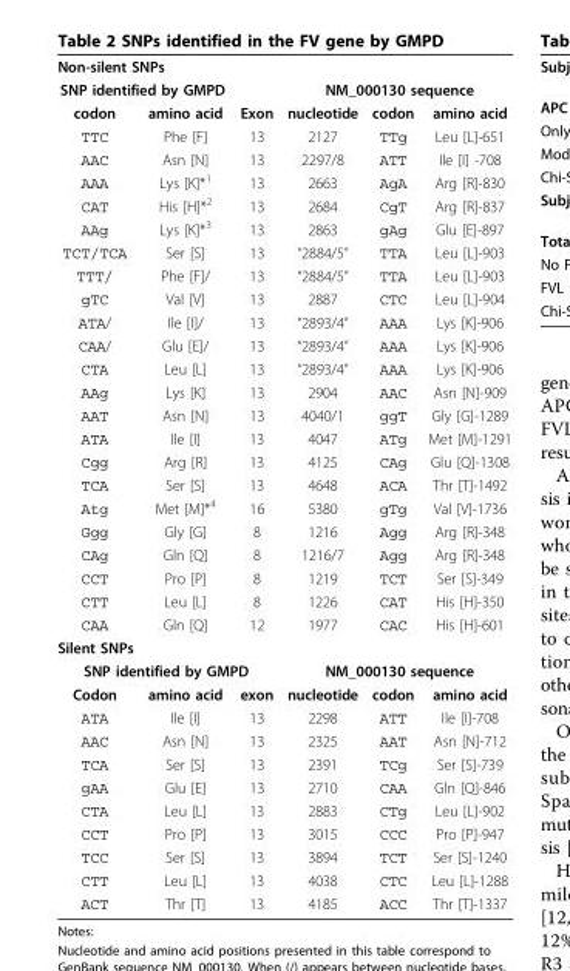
<table><tbody><tr><td colspan="6">Non-silent SNPs</td></tr><tr><td colspan="2">SNP identified by GMPD</td><td></td><td colspan="3">NM_000130 sequence</td></tr><tr><td>codon</td><td>amino acid</td><td>Exon</td><td>nucleotide</td><td>codon</td><td>amino acid</td></tr><tr><td>TTC</td><td>Phe [F]</td><td>13</td><td>2127</td><td>TTg</td><td>Leu [L]-651</td></tr><tr><td>AAC</td><td>Asn [N]</td><td>13</td><td>2297/8</td><td>ATT</td><td>Ile [I] -708</td></tr><tr><td>AAA</td><td>Lys [K]*<sup>1</sup></td><td>13</td><td>2663</td><td>AgA</td><td>Arg [R]-830</td></tr><tr><td>CAT</td><td>His [H]*<sup>2</sup></td><td>13</td><td>2684</td><td>CgT</td><td>Arg [R]-837</td></tr><tr><td>AAg</td><td>Lys [K]*<sup>3</sup></td><td>13</td><td>2863</td><td>gAg</td><td>Glu [E]-897</td></tr><tr><td>TCT/TCA</td><td>Ser [S]</td><td>13</td><td>“2884/5”</td><td>TTA</td><td>Leu [L]-903</td></tr><tr><td>TTT/</td><td>Phe [F]/</td><td>13</td><td>“2884/5”</td><td>TTA</td><td>Leu [L]-903</td></tr><tr><td>gTC</td><td>Val [V]</td><td>13</td><td>2887</td><td>CTC</td><td>Leu [L]-904</td></tr><tr><td>ATA/</td><td>Ile [I]/</td><td>13</td><td>“2893/4”</td><td>AAA</td><td>Lys [K]-906</td></tr><tr><td>CAA/</td><td>Glu [E]/</td><td>13</td><td>“2893/4”</td><td>AAA</td><td>Lys [K]-906</td></tr><tr><td>CTA</td><td>Leu [L]</td><td>13</td><td>“2893/4”</td><td>AAA</td><td>Lys [K]-906</td></tr><tr><td>AAg</td><td>Lys [K]</td><td>13</td><td>2904</td><td>AAC</td><td>Asn [N]-909</td></tr><tr><td>AAT</td><td>Asn [N]</td><td>13</td><td>4040/1</td><td>ggT</td><td>Gly [G]-1289</td></tr><tr><td>ATA</td><td>Ile [I]</td><td>13</td><td>4047</td><td>ATg</td><td>Met [M]-1291</td></tr><tr><td>Cgg</td><td>Arg [R]</td><td>13</td><td>4125</td><td>CAg</td><td>Glu [Q]-1308</td></tr><tr><td>TCA</td><td>Ser [S]</td><td>13</td><td>4648</td><td>ACA</td><td>Thr [T]-1492</td></tr><tr><td>Atg</td><td>Met [M]*<sup>4</sup></td><td>16</td><td>5380</td><td>gTg</td><td>Val [V]-1736</td></tr><tr><td>Ggg</td><td>Gly [G]</td><td>8</td><td>1216</td><td>Agg</td><td>Arg [R]-348</td></tr><tr><td>CAg</td><td>Gln [Q]</td><td>8</td><td>1216/7</td><td>Agg</td><td>Arg [R]-348</td></tr><tr><td>CCT</td><td>Pro [P]</td><td>8</td><td>1219</td><td>TCT</td><td>Ser [S]-349</td></tr><tr><td>CTT</td><td>Leu [L]</td><td>8</td><td>1226</td><td>CAT</td><td>His [H]-350</td></tr><tr><td>CAA</td><td>Gln [Q]</td><td>12</td><td>1977</td><td>CAC</td><td>His [H]-601</td></tr><tr><td colspan="6">Silent SNPs</td></tr><tr><td colspan="3">SNP identified by GMPD</td><td colspan="3">NM_000130 sequence</td></tr><tr><td>Codon</td><td>amino acid</td><td>exon</td><td>nucleotide</td><td>codon</td><td>amino acid</td></tr><tr><td>ATA</td><td>Ile [I]</td><td>13</td><td>2298</td><td>ATT</td><td>Ile [I]-708</td></tr><tr><td>AAC</td><td>Asn [N]</td><td>13</td><td>2325</td><td>AAT</td><td>Asn [N]-712</td></tr><tr><td>TCA</td><td>Ser [S]</td><td>13</td><td>2391</td><td>TCg</td><td>Ser [S]-739</td></tr><tr><td>gAA</td><td>Glu [E]</td><td>13</td><td>2710</td><td>CAA</td><td>Gln [Q]-846</td></tr><tr><td>CTA</td><td>Leu [L]</td><td>13</td><td>2883</td><td>CTg</td><td>Leu [L]-902</td></tr><tr><td>CCT</td><td>Pro [P]</td><td>13</td><td>3015</td><td>CCC</td><td>Pro [P]-947</td></tr><tr><td>TCC</td><td>Ser [S]</td><td>13</td><td>3894</td><td>TCT</td><td>Ser [S]-1240</td></tr><tr><td>CTT</td><td>Leu [L]</td><td>13</td><td>4038</td><td>CTC</td><td>Leu [L]-1288</td></tr><tr><td>ACT</td><td>Thr [T]</td><td>13</td><td>4185</td><td>ACC</td><td>Thr [T]-1337</td></tr></tbody></table>